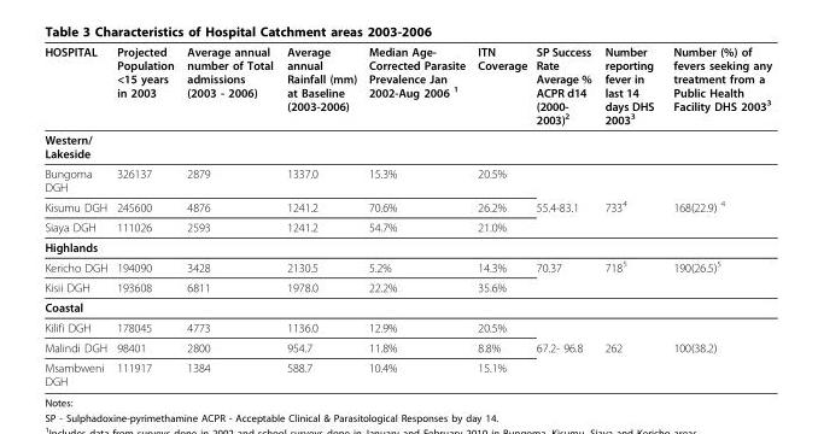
<table><thead><tr><td>HOSPITAL</td><td>Projected Population &lt;15 years in 2003</td><td>Average annual number of Total admissions (2003 - 2006)</td><td>Average annual Rainfall (mm) at Baseline (2003-2006)</td><td>Median Age- Corrected Parasite Prevalence Jan 2002-Aug 2006 <sup>1</sup></td><td>ITN Coverage</td><td>SP Success Rate Average % ACPR d14 (2000- 2003)<sup>2</sup></td><td>Number reporting fever in last 14 days DHS 2003<sup>3</sup></td><td>Number (%) of fevers seeking any treatment from a Public Health Facility DHS 2003<sup>3</sup></td></tr></thead><tbody><tr><td colspan="9">Western/ Lakeside</td></tr><tr><td>Bungoma DGH</td><td>326137</td><td>2879</td><td>1337.0</td><td>15.3%</td><td>20.5%</td><td></td><td></td><td></td></tr><tr><td>Kisumu DGH</td><td>245600</td><td>4876</td><td>1241.2</td><td>70.6%</td><td>26.2%</td><td>55.4-83.1</td><td>733<sup>4</sup></td><td>168(22.9) <sup>4</sup></td></tr><tr><td>Siaya DGH</td><td>111026</td><td>2593</td><td>1241.2</td><td>54.7%</td><td>21.0%</td><td></td><td></td><td></td></tr><tr><td colspan="9">Highlands</td></tr><tr><td>Kericho DGH</td><td>194090</td><td>3428</td><td>2130.5</td><td>5.2%</td><td>14.3%</td><td>70.37</td><td>718<sup>5</sup></td><td>190(26.5)<sup>5</sup></td></tr><tr><td>Kisii DGH</td><td>193608</td><td>6811</td><td>1978.0</td><td>22.2%</td><td>35.6%</td><td></td><td></td><td></td></tr><tr><td colspan="9">Coastal</td></tr><tr><td>Kilifi DGH</td><td>178045</td><td>4773</td><td>1136.0</td><td>12.9%</td><td>20.5%</td><td></td><td></td><td></td></tr><tr><td>Malindi DGH</td><td>98401</td><td>2800</td><td>954.7</td><td>11.8%</td><td>8.8%</td><td>67.2- 96.8</td><td>262</td><td>100(38.2)</td></tr><tr><td>Msambweni DGH</td><td>111917</td><td>1384</td><td>588.7</td><td>10.4%</td><td>15.1%</td><td></td><td></td><td></td></tr></tbody></table>